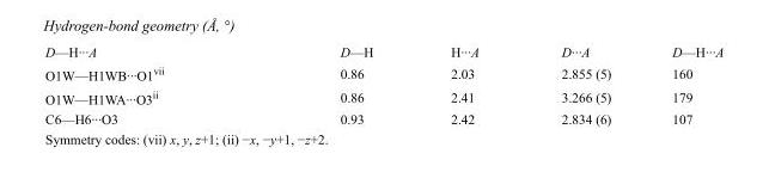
<table><tbody><tr><td>D—H···A</td><td>D—H</td><td>H···A</td><td>D···A</td><td>D—H···A</td></tr><tr><td>O1W—H1WB···O1<sup>vii</sup></td><td>0.86</td><td>2.03</td><td>2.855 (5)</td><td>160</td></tr><tr><td>O1W—H1WA···O3<sup>ii</sup></td><td>0.86</td><td>2.41</td><td>3.266 (5)</td><td>179</td></tr><tr><td>C6—H6···O3</td><td>0.93</td><td>2.42</td><td>2.834 (6)</td><td>107</td></tr></tbody></table>